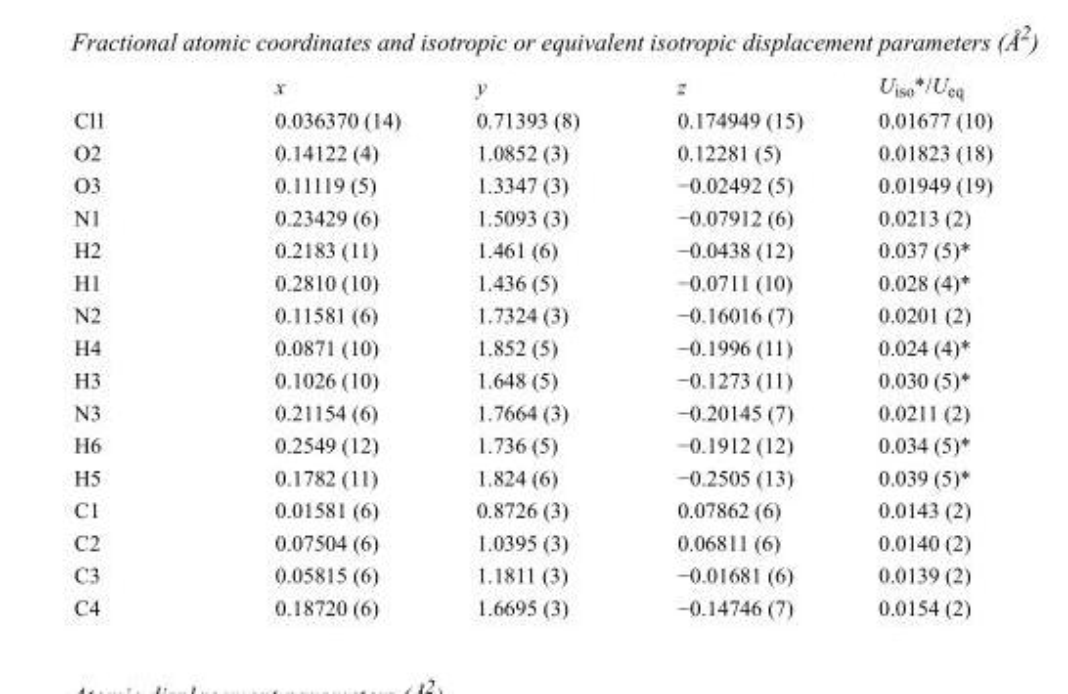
<table><thead><tr><td></td><td>x</td><td>y</td><td>z</td><td>U<sub>iso</sub>*/U<sub>eq</sub></td></tr></thead><tbody><tr><td>Cl1</td><td>0.036370 (14)</td><td>0.71393 (8)</td><td>0.174949 (15)</td><td>0.01677 (10)</td></tr><tr><td>O2</td><td>0.14122 (4)</td><td>1.0852 (3)</td><td>0.12281 (5)</td><td>0.01823 (18)</td></tr><tr><td>O3</td><td>0.11119 (5)</td><td>1.3347 (3)</td><td>−0.02492 (5)</td><td>0.01949 (19)</td></tr><tr><td>N1</td><td>0.23429 (6)</td><td>1.5093 (3)</td><td>−0.07912 (6)</td><td>0.0213 (2)</td></tr><tr><td>H2</td><td>0.2183 (11)</td><td>1.461 (6)</td><td>−0.0438 (12)</td><td>0.037 (5)*</td></tr><tr><td>H1</td><td>0.2810 (10)</td><td>1.436 (5)</td><td>−0.0711 (10)</td><td>0.028 (4)*</td></tr><tr><td>N2</td><td>0.11581 (6)</td><td>1.7324 (3)</td><td>−0.16016 (7)</td><td>0.0201 (2)</td></tr><tr><td>H4</td><td>0.0871 (10)</td><td>1.852 (5)</td><td>−0.1996 (11)</td><td>0.024 (4)*</td></tr><tr><td>H3</td><td>0.1026 (10)</td><td>1.648 (5)</td><td>−0.1273 (11)</td><td>0.030 (5)*</td></tr><tr><td>N3</td><td>0.21154 (6)</td><td>1.7664 (3)</td><td>−0.20145 (7)</td><td>0.0211 (2)</td></tr><tr><td>H6</td><td>0.2549 (12)</td><td>1.736 (5)</td><td>−0.1912 (12)</td><td>0.034 (5)*</td></tr><tr><td>H5</td><td>0.1782 (11)</td><td>1.824 (6)</td><td>−0.2505 (13)</td><td>0.039 (5)*</td></tr><tr><td>C1</td><td>0.01581 (6)</td><td>0.8726 (3)</td><td>0.07862 (6)</td><td>0.0143 (2)</td></tr><tr><td>C2</td><td>0.07504 (6)</td><td>1.0395 (3)</td><td>0.06811 (6)</td><td>0.0140 (2)</td></tr><tr><td>C3</td><td>0.05815 (6)</td><td>1.1811 (3)</td><td>−0.01681 (6)</td><td>0.0139 (2)</td></tr><tr><td>C4</td><td>0.18720 (6)</td><td>1.6695 (3)</td><td>−0.14746 (7)</td><td>0.0154 (2)</td></tr></tbody></table>